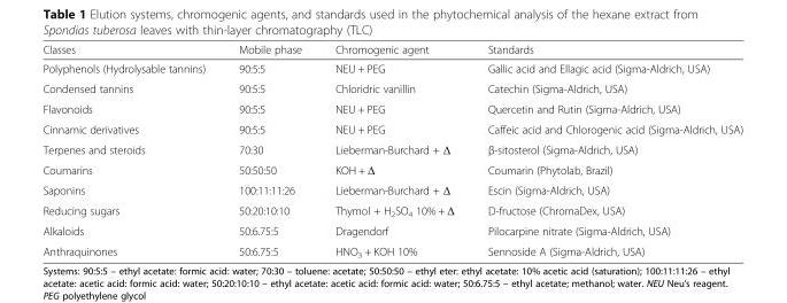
<table><thead><tr><td>Classes</td><td>Mobile phase</td><td>Chromogenic agent</td><td>Standards</td></tr></thead><tbody><tr><td>Polyphenols (Hydrolysable tannins)</td><td>90:5:5</td><td>NEU + PEG</td><td>Gallic acid and Ellagic acid (Sigma-Aldrich, USA)</td></tr><tr><td>Condensed tannins</td><td>90:5:5</td><td>Chloridric vanillin</td><td>Catechin (Sigma-Aldrich, USA)</td></tr><tr><td>Flavonoids</td><td>90:5:5</td><td>NEU + PEG</td><td>Quercetin and Rutin (Sigma-Aldrich, USA)</td></tr><tr><td>Cinnamic derivatives</td><td>90:5:5</td><td>NEU + PEG</td><td>Caffeic acid and Chlorogenic acid (Sigma-Aldrich, USA)</td></tr><tr><td>Terpenes and steroids</td><td>70:30</td><td>Lieberman-Burchard + Δ</td><td>β-sitosterol (Sigma-Aldrich, USA)</td></tr><tr><td>Coumarins</td><td>50:50:50</td><td>KOH + Δ</td><td>Coumarin (Phytolab, Brazil)</td></tr><tr><td>Saponins</td><td>100:11:11:26</td><td>Lieberman-Burchard + Δ</td><td>Escin (Sigma-Aldrich, USA)</td></tr><tr><td>Reducing sugars</td><td>50:20:10:10</td><td>Thymol + H<sub>2</sub>SO<sub>4</sub> 10% + Δ</td><td>D-fructose (ChromaDex, USA)</td></tr><tr><td>Alkaloids</td><td>50:6.75:5</td><td>Dragendorf</td><td>Pilocarpine nitrate (Sigma-Aldrich, USA)</td></tr><tr><td>Anthraquinones</td><td>50:6.75:5</td><td>HNO<sub>3</sub> + KOH 10%</td><td>Sennoside A (Sigma-Aldrich, USA)</td></tr></tbody></table>